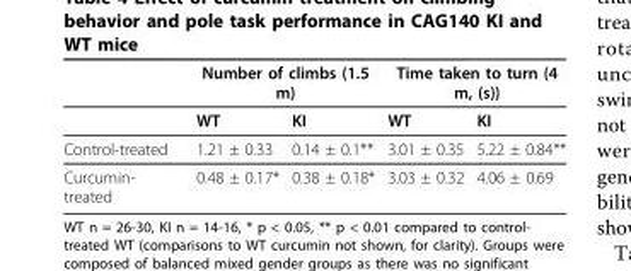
<table><thead><tr><td rowspan="2"></td><td colspan="2">Number of climbs (1.5 m)</td><td colspan="2">Time taken to turn (4 m, (s))</td></tr><tr><td>WT</td><td>KI</td><td>WT</td><td>KI</td></tr></thead><tbody><tr><td>Control-treated</td><td>1.21 ± 0.33</td><td>0.14 ± 0.1**</td><td>3.01 ± 0.35</td><td>5.22 ± 0.84**</td></tr><tr><td>Curcumin- treated</td><td>0.48 ± 0.17*</td><td>0.38 ± 0.18*</td><td>3.03 ± 0.32</td><td>4.06 ± 0.69</td></tr></tbody></table>